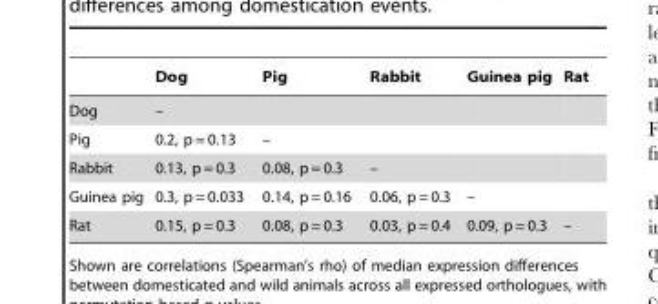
<table><thead><tr><td></td><td>Dog</td><td>Pig</td><td>Rabbit</td><td>Guinea pig</td><td>Rat</td></tr></thead><tbody><tr><td>Dog</td><td>–</td><td></td><td></td><td></td><td></td></tr><tr><td>Pig</td><td>0.2, p = 0.13</td><td>–</td><td></td><td></td><td></td></tr><tr><td>Rabbit</td><td>0.13, p = 0.3</td><td>0.08, p = 0.3</td><td>–</td><td></td><td></td></tr><tr><td>Guinea pig</td><td>0.3, p = 0.033</td><td>0.14, p = 0.16</td><td>0.06, p = 0.3</td><td>–</td><td></td></tr><tr><td>Rat</td><td>0.15, p = 0.3</td><td>0.08, p = 0.3</td><td>0.03, p = 0.4</td><td>0.09, p = 0.3</td><td>–</td></tr></tbody></table>